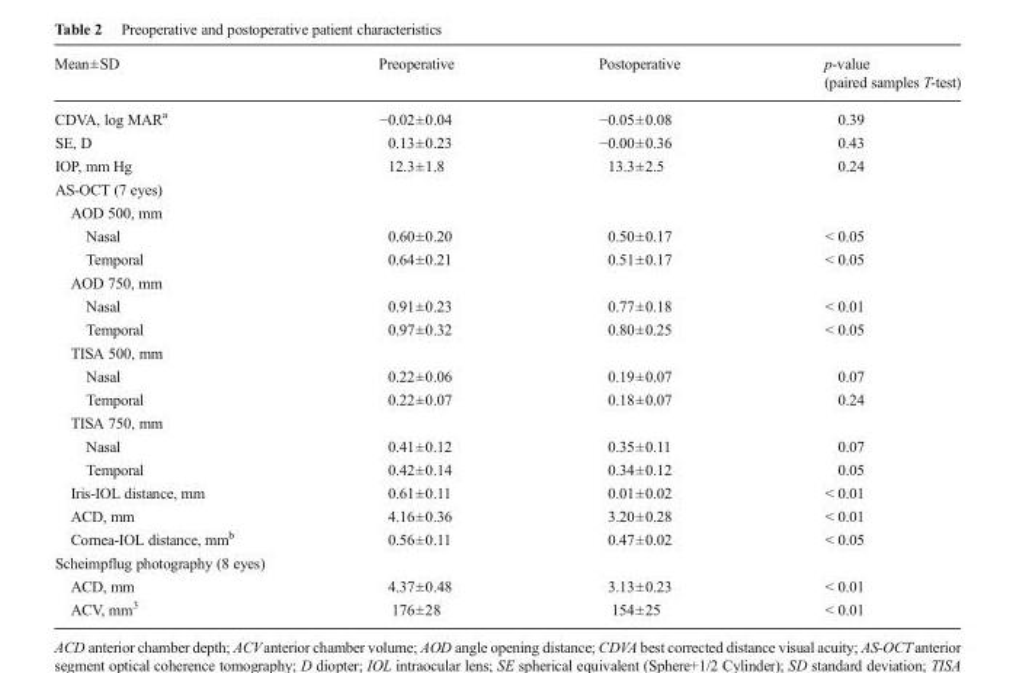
<table><thead><tr><td>Mean±SD</td><td>Preoperative</td><td>Postoperative</td><td>p-value (paired samples T-test)</td></tr></thead><tbody><tr><td>CDVA, log MAR<sup>a</sup></td><td>−0.02±0.04</td><td>−0.05±0.08</td><td>0.39</td></tr><tr><td>SE, D</td><td>0.13±0.23</td><td>−0.00±0.36</td><td>0.43</td></tr><tr><td>IOP, mm Hg</td><td>12.3±1.8</td><td>13.3±2.5</td><td>0.24</td></tr><tr><td colspan="4">AS-OCT (7 eyes)</td></tr><tr><td colspan="4">AOD 500, mm</td></tr><tr><td>Nasal</td><td>0.60±0.20</td><td>0.50±0.17</td><td>&lt; 0.05</td></tr><tr><td>Temporal</td><td>0.64±0.21</td><td>0.51±0.17</td><td>&lt; 0.05</td></tr><tr><td colspan="4">AOD 750, mm</td></tr><tr><td>Nasal</td><td>0.91±0.23</td><td>0.77±0.18</td><td>&lt; 0.01</td></tr><tr><td>Temporal</td><td>0.97±0.32</td><td>0.80±0.25</td><td>&lt; 0.05</td></tr><tr><td colspan="4">TISA 500, mm</td></tr><tr><td>Nasal</td><td>0.22±0.06</td><td>0.19±0.07</td><td>0.07</td></tr><tr><td>Temporal</td><td>0.22±0.07</td><td>0.18±0.07</td><td>0.24</td></tr><tr><td colspan="4">TISA 750, mm</td></tr><tr><td>Nasal</td><td>0.41±0.12</td><td>0.35±0.11</td><td>0.07</td></tr><tr><td>Temporal</td><td>0.42±0.14</td><td>0.34±0.12</td><td>0.05</td></tr><tr><td>Iris-IOL distance, mm</td><td>0.61±0.11</td><td>0.01±0.02</td><td>&lt; 0.01</td></tr><tr><td>ACD, mm</td><td>4.16±0.36</td><td>3.20±0.28</td><td>&lt; 0.01</td></tr><tr><td>Cornea-IOL distance, mm<sup>b</sup></td><td>0.56±0.11</td><td>0.47±0.02</td><td>&lt; 0.05</td></tr><tr><td colspan="4">Scheimpflug photography (8 eyes)</td></tr><tr><td>ACD, mm</td><td>4.37±0.48</td><td>3.13±0.23</td><td>&lt; 0.01</td></tr><tr><td>ACV, mm<sup>3</sup></td><td>176±28</td><td>154±25</td><td>&lt; 0.01</td></tr></tbody></table>